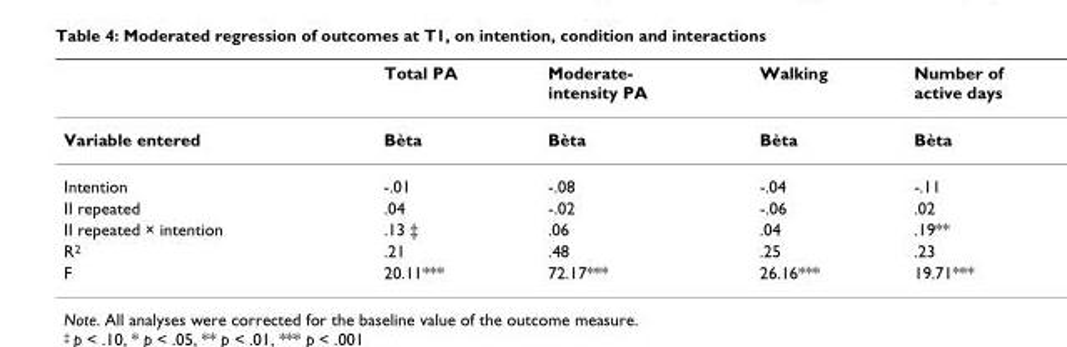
<table><thead><tr><td></td><td>Total PA</td><td>Moderate- intensity PA</td><td>Walking</td><td>Number of active days</td></tr></thead><tbody><tr><td>Variable entered</td><td>Bèta</td><td>Bèta</td><td>Bèta</td><td>Bèta</td></tr><tr><td>Intention</td><td>-.01</td><td>-.08</td><td>-.04</td><td>-.11</td></tr><tr><td>II repeated</td><td>.04</td><td>-.02</td><td>-.06</td><td>.02</td></tr><tr><td>II repeated × intention</td><td>.13 ‡</td><td>.06</td><td>.04</td><td>.19**</td></tr><tr><td>R<sup>2</sup></td><td>.21</td><td>.48</td><td>.25</td><td>.23</td></tr><tr><td>F</td><td>20.11***</td><td>72.17***</td><td>26.16***</td><td>19.71***</td></tr></tbody></table>